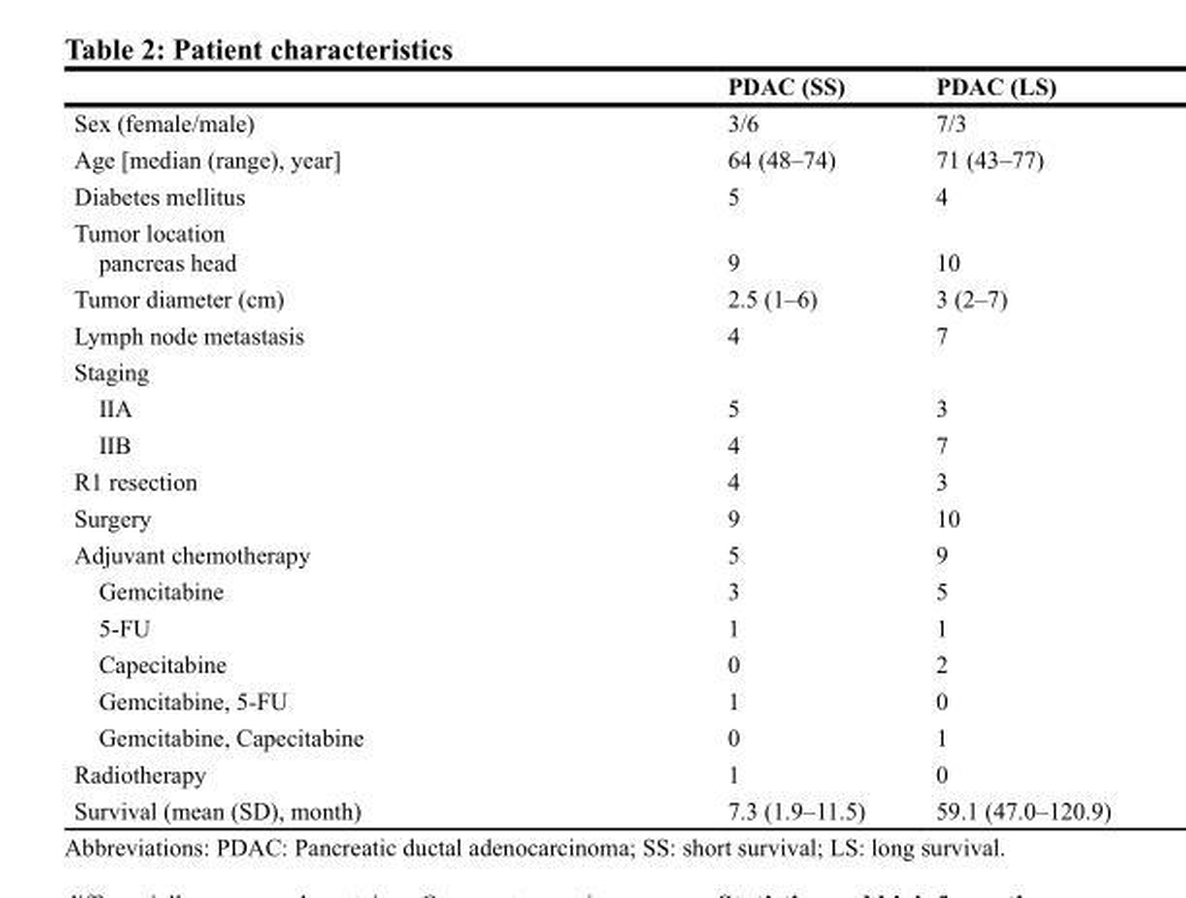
<table><thead><tr><td></td><td>PDAC (SS)</td><td>PDAC (LS)</td></tr></thead><tbody><tr><td>Sex (female/male)</td><td>3/6</td><td>7/3</td></tr><tr><td>Age [median (range), year]</td><td>64 (48–74)</td><td>71 (43–77)</td></tr><tr><td>Diabetes mellitus</td><td>5</td><td>4</td></tr><tr><td>Tumor location pancreas head</td><td>9</td><td>10</td></tr><tr><td>Tumor diameter (cm)</td><td>2.5 (1–6)</td><td>3 (2–7)</td></tr><tr><td>Lymph node metastasis</td><td>4</td><td>7</td></tr><tr><td colspan="3">Staging</td></tr><tr><td>IIA</td><td>5</td><td>3</td></tr><tr><td>IIB</td><td>4</td><td>7</td></tr><tr><td>R1 resection</td><td>4</td><td>3</td></tr><tr><td>Surgery</td><td>9</td><td>10</td></tr><tr><td>Adjuvant chemotherapy</td><td>5</td><td>9</td></tr><tr><td>Gemcitabine</td><td>3</td><td>5</td></tr><tr><td>5-FU</td><td>1</td><td>1</td></tr><tr><td>Capecitabine</td><td>0</td><td>2</td></tr><tr><td>Gemcitabine, 5-FU</td><td>1</td><td>0</td></tr><tr><td>Gemcitabine, Capecitabine</td><td>0</td><td>1</td></tr><tr><td>Radiotherapy</td><td>1</td><td>0</td></tr><tr><td>Survival (mean (SD), month)</td><td>7.3 (1.9–11.5)</td><td>59.1 (47.0–120.9)</td></tr></tbody></table>